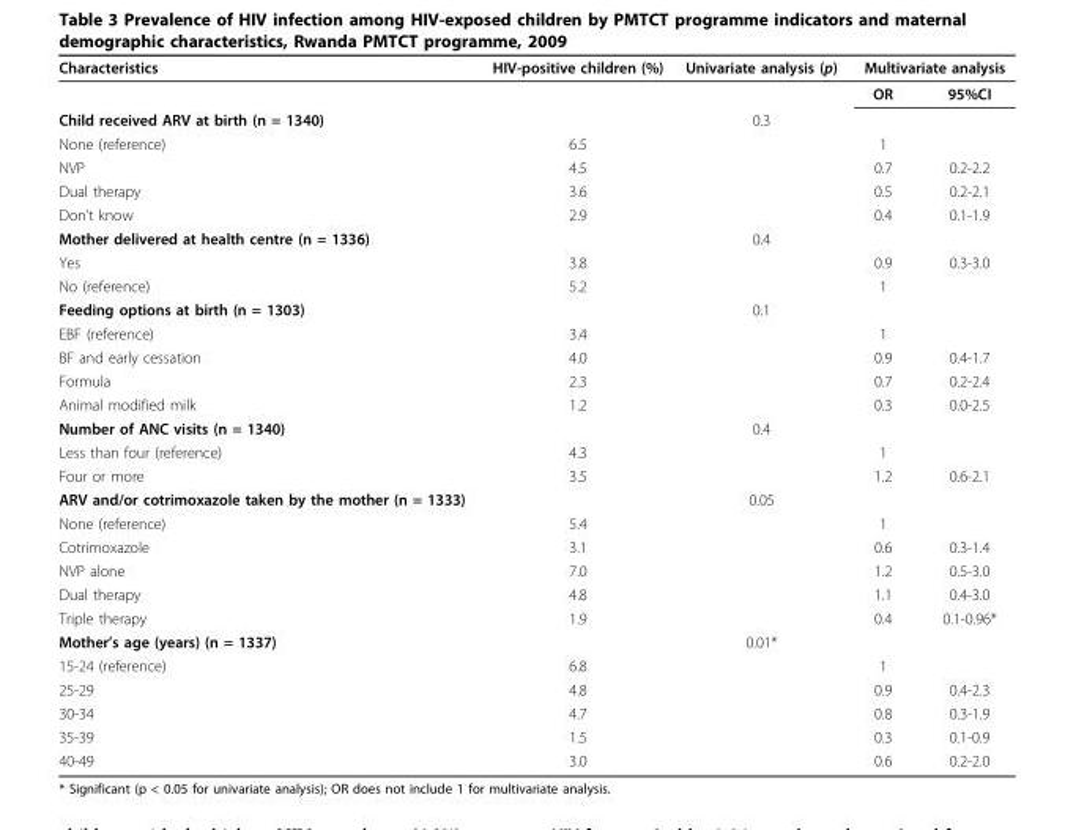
<table><thead><tr><td rowspan="2">Characteristics</td><td rowspan="2">HIV-positive children (%)</td><td rowspan="2">Univariate analysis (p)</td><td colspan="2">Multivariate analysis</td></tr><tr><td>OR</td><td>95%CI</td></tr></thead><tbody><tr><td>Child received ARV at birth (n = 1340)</td><td></td><td>0.3</td><td></td><td></td></tr><tr><td>None (reference)</td><td>6.5</td><td></td><td>1</td><td></td></tr><tr><td>NVP</td><td>4.5</td><td></td><td>0.7</td><td>0.2-2.2</td></tr><tr><td>Dual therapy</td><td>3.6</td><td></td><td>0.5</td><td>0.2-2.1</td></tr><tr><td>Don’t know</td><td>2.9</td><td></td><td>0.4</td><td>0.1-1.9</td></tr><tr><td>Mother delivered at health centre (n = 1336)</td><td></td><td>0.4</td><td></td><td></td></tr><tr><td>Yes</td><td>3.8</td><td></td><td>0.9</td><td>0.3-3.0</td></tr><tr><td>No (reference)</td><td>5.2</td><td></td><td>1</td><td></td></tr><tr><td>Feeding options at birth (n = 1303)</td><td></td><td>0.1</td><td></td><td></td></tr><tr><td>EBF (reference)</td><td>3.4</td><td></td><td>1</td><td></td></tr><tr><td>BF and early cessation</td><td>4.0</td><td></td><td>0.9</td><td>0.4-1.7</td></tr><tr><td>Formula</td><td>2.3</td><td></td><td>0.7</td><td>0.2-2.4</td></tr><tr><td>Animal modified milk</td><td>1.2</td><td></td><td>0.3</td><td>0.0-2.5</td></tr><tr><td>Number of ANC visits (n = 1340)</td><td></td><td>0.4</td><td></td><td></td></tr><tr><td>Less than four (reference)</td><td>4.3</td><td></td><td>1</td><td></td></tr><tr><td>Four or more</td><td>3.5</td><td></td><td>1.2</td><td>0.6-2.1</td></tr><tr><td>ARV and/or cotrimoxazole taken by the mother (n = 1333)</td><td></td><td>0.05</td><td></td><td></td></tr><tr><td>None (reference)</td><td>5.4</td><td></td><td>1</td><td></td></tr><tr><td>Cotrimoxazole</td><td>3.1</td><td></td><td>0.6</td><td>0.3-1.4</td></tr><tr><td>NVP alone</td><td>7.0</td><td></td><td>1.2</td><td>0.5-3.0</td></tr><tr><td>Dual therapy</td><td>4.8</td><td></td><td>1.1</td><td>0.4-3.0</td></tr><tr><td>Triple therapy</td><td>1.9</td><td></td><td>0.4</td><td>0.1-0.96*</td></tr><tr><td>Mother’s age (years) (n = 1337)</td><td></td><td>0.01*</td><td></td><td></td></tr><tr><td>15-24 (reference)</td><td>6.8</td><td></td><td>1</td><td></td></tr><tr><td>25-29</td><td>4.8</td><td></td><td>0.9</td><td>0.4-2.3</td></tr><tr><td>30-34</td><td>4.7</td><td></td><td>0.8</td><td>0.3-1.9</td></tr><tr><td>35-39</td><td>1.5</td><td></td><td>0.3</td><td>0.1-0.9</td></tr><tr><td>40-49</td><td>3.0</td><td></td><td>0.6</td><td>0.2-2.0</td></tr></tbody></table>